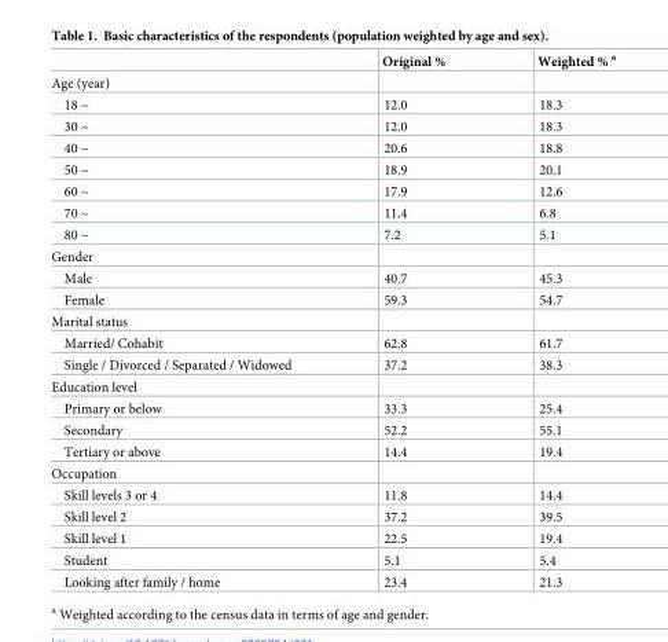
<table><thead><tr><td></td><td>Original %</td><td>Weighted % <sup>a</sup></td></tr></thead><tbody><tr><td colspan="3">Age (year)</td></tr><tr><td>18 ~</td><td>12.0</td><td>18.3</td></tr><tr><td>30 ~</td><td>12.0</td><td>18.3</td></tr><tr><td>40 ~</td><td>20.6</td><td>18.8</td></tr><tr><td>50 ~</td><td>18.9</td><td>20.1</td></tr><tr><td>60 ~</td><td>17.9</td><td>12.6</td></tr><tr><td>70 ~</td><td>11.4</td><td>6.8</td></tr><tr><td>80 ~</td><td>7.2</td><td>5.1</td></tr><tr><td colspan="3">Gender</td></tr><tr><td>Male</td><td>40.7</td><td>45.3</td></tr><tr><td>Female</td><td>59.3</td><td>54.7</td></tr><tr><td colspan="3">Marital status</td></tr><tr><td>Married/ Cohabit</td><td>62.8</td><td>61.7</td></tr><tr><td>Single / Divorced / Separated / Widowed</td><td>37.2</td><td>38.3</td></tr><tr><td colspan="3">Education level</td></tr><tr><td>Primary or below</td><td>33.3</td><td>25.4</td></tr><tr><td>Secondary</td><td>52.2</td><td>55.1</td></tr><tr><td>Tertiary or above</td><td>14.4</td><td>19.4</td></tr><tr><td colspan="3">Occupation</td></tr><tr><td>Skill levels 3 or 4</td><td>11.8</td><td>14.4</td></tr><tr><td>Skill level 2</td><td>37.2</td><td>39.5</td></tr><tr><td>Skill level 1</td><td>22.5</td><td>19.4</td></tr><tr><td>Student</td><td>5.1</td><td>5.4</td></tr><tr><td>Looking after family / home</td><td>23.4</td><td>21.3</td></tr></tbody></table>